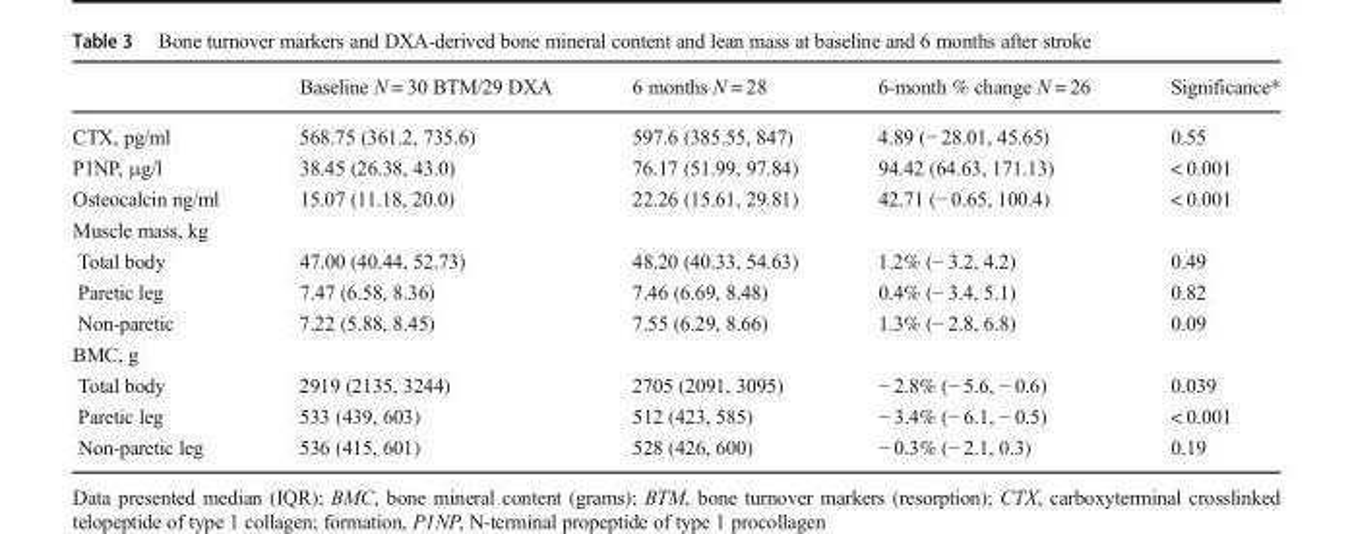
<table><thead><tr><td></td><td>Baseline N = 30 BTM/29 DXA</td><td>6 months N = 28</td><td>6-month % change N = 26</td><td>Significance*</td></tr></thead><tbody><tr><td>CTX, pg/ml</td><td>568.75 (361.2, 735.6)</td><td>597.6 (385.55, 847)</td><td>4.89 (− 28.01, 45.65)</td><td>0.55</td></tr><tr><td>P1NP, μg/l</td><td>38.45 (26.38, 43.0)</td><td>76.17 (51.99, 97.84)</td><td>94.42 (64.63, 171.13)</td><td>&lt; 0.001</td></tr><tr><td>Osteocalcin ng/ml</td><td>15.07 (11.18, 20.0)</td><td>22.26 (15.61, 29.81)</td><td>42.71 (− 0.65, 100.4)</td><td>&lt; 0.001</td></tr><tr><td colspan="5">Muscle mass, kg</td></tr><tr><td>Total body</td><td>47.00 (40.44, 52.73)</td><td>48.20 (40.33, 54.63)</td><td>1.2% (− 3.2, 4.2)</td><td>0.49</td></tr><tr><td>Paretic leg</td><td>7.47 (6.58, 8.36)</td><td>7.46 (6.69, 8.48)</td><td>0.4% (− 3.4, 5.1)</td><td>0.82</td></tr><tr><td>Non-paretic</td><td>7.22 (5.88, 8.45)</td><td>7.55 (6.29, 8.66)</td><td>1.3% (− 2.8, 6.8)</td><td>0.09</td></tr><tr><td colspan="5">BMC, g</td></tr><tr><td>Total body</td><td>2919 (2135, 3244)</td><td>2705 (2091, 3095)</td><td>− 2.8% (− 5.6, − 0.6)</td><td>0.039</td></tr><tr><td>Paretic leg</td><td>533 (439, 603)</td><td>512 (423, 585)</td><td>− 3.4% (− 6.1, − 0.5)</td><td>&lt; 0.001</td></tr><tr><td>Non-paretic leg</td><td>536 (415, 601)</td><td>528 (426, 600)</td><td>− 0.3% (− 2.1, 0.3)</td><td>0.19</td></tr></tbody></table>